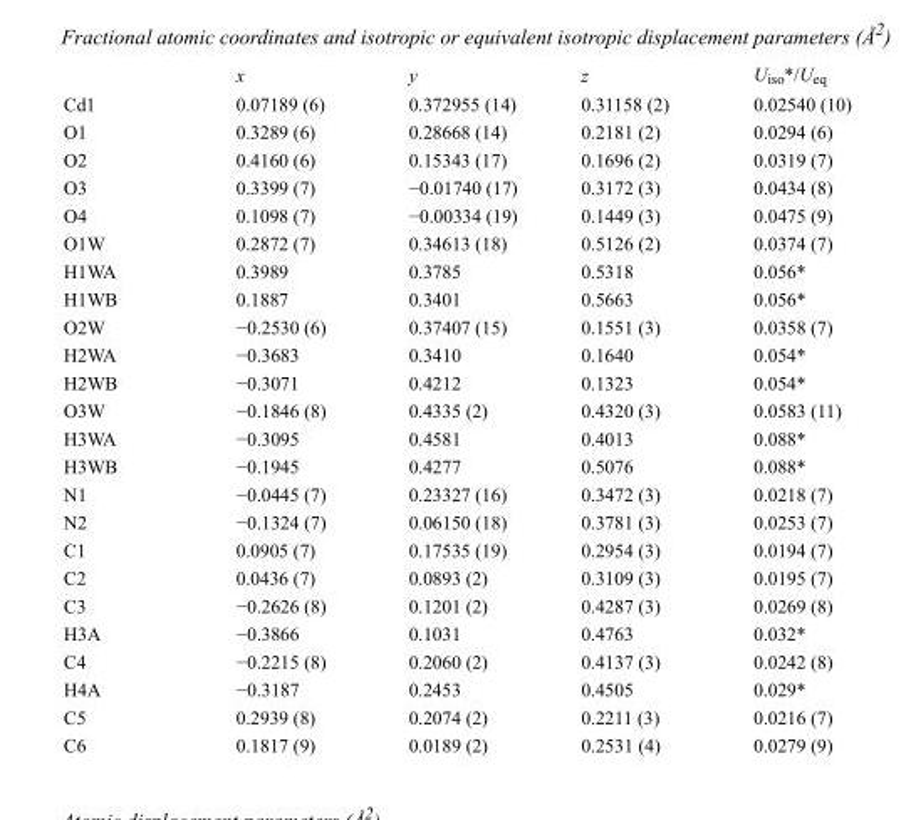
<table><thead><tr><td></td><td>x</td><td>y</td><td>z</td><td>U<sub>iso</sub>*/U<sub>eq</sub></td></tr></thead><tbody><tr><td>Cd1</td><td>0.07189 (6)</td><td>0.372955 (14)</td><td>0.31158 (2)</td><td>0.02540 (10)</td></tr><tr><td>O1</td><td>0.3289 (6)</td><td>0.28668 (14)</td><td>0.2181 (2)</td><td>0.0294 (6)</td></tr><tr><td>O2</td><td>0.4160 (6)</td><td>0.15343 (17)</td><td>0.1696 (2)</td><td>0.0319 (7)</td></tr><tr><td>O3</td><td>0.3399 (7)</td><td>−0.01740 (17)</td><td>0.3172 (3)</td><td>0.0434 (8)</td></tr><tr><td>O4</td><td>0.1098 (7)</td><td>−0.00334 (19)</td><td>0.1449 (3)</td><td>0.0475 (9)</td></tr><tr><td>O1W</td><td>0.2872 (7)</td><td>0.34613 (18)</td><td>0.5126 (2)</td><td>0.0374 (7)</td></tr><tr><td>H1WA</td><td>0.3989</td><td>0.3785</td><td>0.5318</td><td>0.056*</td></tr><tr><td>H1WB</td><td>0.1887</td><td>0.3401</td><td>0.5663</td><td>0.056*</td></tr><tr><td>O2W</td><td>−0.2530 (6)</td><td>0.37407 (15)</td><td>0.1551 (3)</td><td>0.0358 (7)</td></tr><tr><td>H2WA</td><td>−0.3683</td><td>0.3410</td><td>0.1640</td><td>0.054*</td></tr><tr><td>H2WB</td><td>−0.3071</td><td>0.4212</td><td>0.1323</td><td>0.054*</td></tr><tr><td>O3W</td><td>−0.1846 (8)</td><td>0.4335 (2)</td><td>0.4320 (3)</td><td>0.0583 (11)</td></tr><tr><td>H3WA</td><td>−0.3095</td><td>0.4581</td><td>0.4013</td><td>0.088*</td></tr><tr><td>H3WB</td><td>−0.1945</td><td>0.4277</td><td>0.5076</td><td>0.088*</td></tr><tr><td>N1</td><td>−0.0445 (7)</td><td>0.23327 (16)</td><td>0.3472 (3)</td><td>0.0218 (7)</td></tr><tr><td>N2</td><td>−0.1324 (7)</td><td>0.06150 (18)</td><td>0.3781 (3)</td><td>0.0253 (7)</td></tr><tr><td>C1</td><td>0.0905 (7)</td><td>0.17535 (19)</td><td>0.2954 (3)</td><td>0.0194 (7)</td></tr><tr><td>C2</td><td>0.0436 (7)</td><td>0.0893 (2)</td><td>0.3109 (3)</td><td>0.0195 (7)</td></tr><tr><td>C3</td><td>−0.2626 (8)</td><td>0.1201 (2)</td><td>0.4287 (3)</td><td>0.0269 (8)</td></tr><tr><td>H3A</td><td>−0.3866</td><td>0.1031</td><td>0.4763</td><td>0.032*</td></tr><tr><td>C4</td><td>−0.2215 (8)</td><td>0.2060 (2)</td><td>0.4137 (3)</td><td>0.0242 (8)</td></tr><tr><td>H4A</td><td>−0.3187</td><td>0.2453</td><td>0.4505</td><td>0.029*</td></tr><tr><td>C5</td><td>0.2939 (8)</td><td>0.2074 (2)</td><td>0.2211 (3)</td><td>0.0216 (7)</td></tr><tr><td>C6</td><td>0.1817 (9)</td><td>0.0189 (2)</td><td>0.2531 (4)</td><td>0.0279 (9)</td></tr></tbody></table>